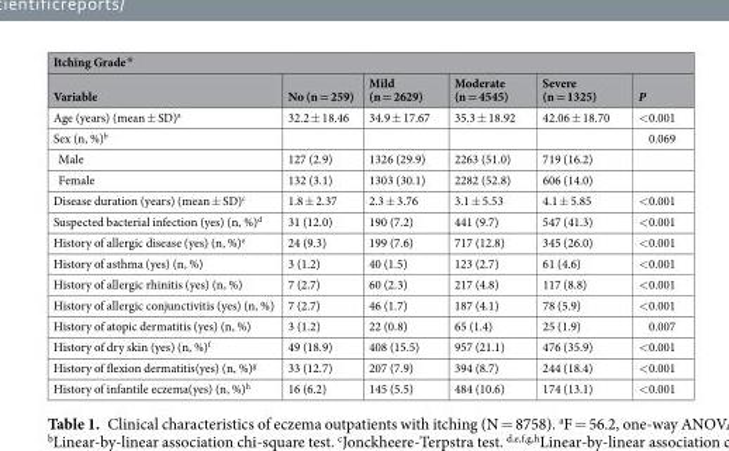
<table><thead><tr><td colspan="6">Itching Grade<sup>※</sup></td></tr><tr><td>Variable</td><td>No (n = 259)</td><td>Mild (n = 2629)</td><td>Moderate (n = 4545)</td><td>Severe (n = 1325)</td><td>P</td></tr></thead><tbody><tr><td>Age (years) (mean ± SD)<sup>a</sup></td><td>32.2 ± 18.46</td><td>34.9 ± 17.67</td><td>35.3 ± 18.92</td><td>42.06 ± 18.70</td><td>&lt;0.001</td></tr><tr><td>Sex (n, %)<sup>b</sup></td><td></td><td></td><td></td><td></td><td>0.069</td></tr><tr><td>Male</td><td>127 (2.9)</td><td>1326 (29.9)</td><td>2263 (51.0)</td><td>719 (16.2)</td><td></td></tr><tr><td>Female</td><td>132 (3.1)</td><td>1303 (30.1)</td><td>2282 (52.8)</td><td>606 (14.0)</td><td></td></tr><tr><td>Disease duration (years) (mean ± SD)<sup>c</sup></td><td>1.8 ± 2.37</td><td>2.3 ± 3.76</td><td>3.1 ± 5.53</td><td>4.1 ± 5.85</td><td>&lt;0.001</td></tr><tr><td>Suspected bacterial infection (yes) (n, %)<sup>d</sup></td><td>31 (12.0)</td><td>190 (7.2)</td><td>441 (9.7)</td><td>547 (41.3)</td><td>&lt;0.001</td></tr><tr><td>History of allergic disease (yes) (n, %)<sup>e</sup></td><td>24 (9.3)</td><td>199 (7.6)</td><td>717 (12.8)</td><td>345 (26.0)</td><td>&lt;0.001</td></tr><tr><td>History of asthma (yes) (n, %)</td><td>3 (1.2)</td><td>40 (1.5)</td><td>123 (2.7)</td><td>61 (4.6)</td><td>&lt;0.001</td></tr><tr><td>History of allergic rhinitis (yes) (n, %)</td><td>7 (2.7)</td><td>60 (2.3)</td><td>217 (4.8)</td><td>117 (8.8)</td><td>&lt;0.001</td></tr><tr><td>History of allergic conjunctivitis (yes) (n, %)</td><td>7 (2.7)</td><td>46 (1.7)</td><td>187 (4.1)</td><td>78 (5.9)</td><td>&lt;0.001</td></tr><tr><td>History of atopic dermatitis (yes) (n, %)</td><td>3 (1.2)</td><td>22 (0.8)</td><td>65 (1.4)</td><td>25 (1.9)</td><td>0.007</td></tr><tr><td>History of dry skin (yes) (n, %)<sup>f</sup></td><td>49 (18.9)</td><td>408 (15.5)</td><td>957 (21.1)</td><td>476 (35.9)</td><td>&lt;0.001</td></tr><tr><td>History of flexion dermatitis(yes) (n, %)<sup>g</sup></td><td>33 (12.7)</td><td>207 (7.9)</td><td>394 (8.7)</td><td>244 (18.4)</td><td>&lt;0.001</td></tr><tr><td>History of infantile eczema(yes) (n, %)<sup>h</sup></td><td>16 (6.2)</td><td>145 (5.5)</td><td>484 (10.6)</td><td>174 (13.1)</td><td>&lt;0.001</td></tr></tbody></table>